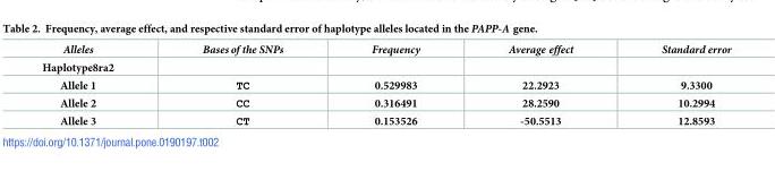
<table><thead><tr><td>Alleles</td><td>Bases of the SNPs</td><td>Frequency</td><td>Average effect</td><td>Standard error</td></tr></thead><tbody><tr><td colspan="5">Haplotype8ra2</td></tr><tr><td>Allele 1</td><td>TC</td><td>0.529983</td><td>22.2923</td><td>9.3300</td></tr><tr><td>Allele 2</td><td>CC</td><td>0.316491</td><td>28.2590</td><td>10.2994</td></tr><tr><td>Allele 3</td><td>CT</td><td>0.153526</td><td>-50.5513</td><td>12.8593</td></tr></tbody></table>